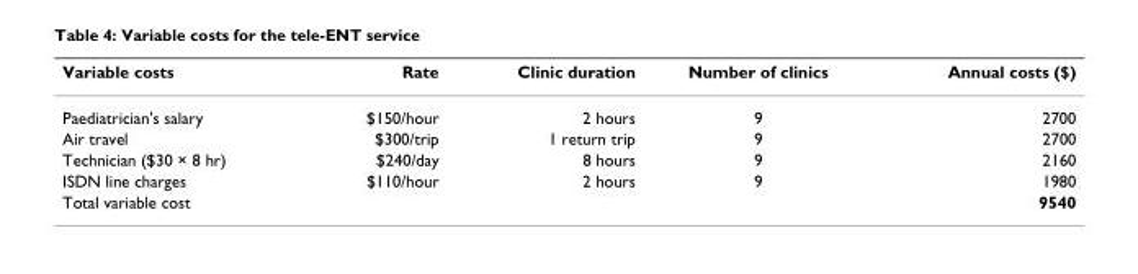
<table><thead><tr><td>Variable costs</td><td>Rate</td><td>Clinic duration</td><td>Number of clinics</td><td>Annual costs ($)</td></tr></thead><tbody><tr><td>Paediatrician&#x27;s salary</td><td>$150/hour</td><td>2 hours</td><td>9</td><td>2700</td></tr><tr><td>Air travel</td><td>$300/trip</td><td>1 return trip</td><td>9</td><td>2700</td></tr><tr><td>Technician ($30 × 8 hr)</td><td>$240/day</td><td>8 hours</td><td>9</td><td>2160</td></tr><tr><td>ISDN line charges</td><td>$110/hour</td><td>2 hours</td><td>9</td><td>1980</td></tr><tr><td>Total variable cost</td><td></td><td></td><td></td><td>9540</td></tr></tbody></table>